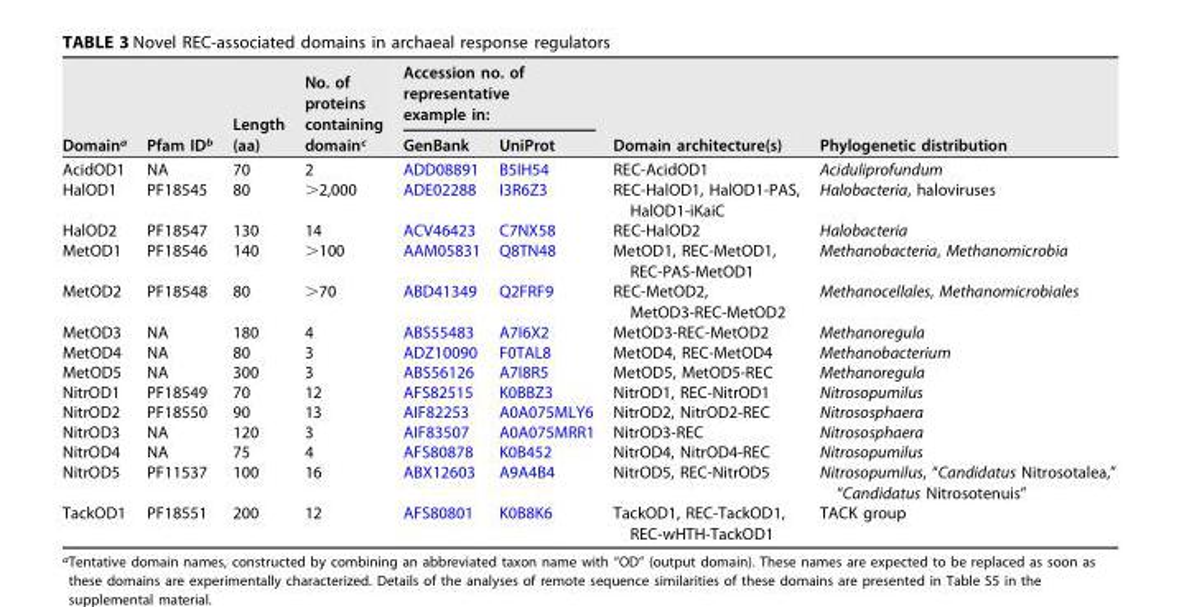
<table><thead><tr><td rowspan="2">Domain<sup>a</sup></td><td rowspan="2">Pfam ID<sup>b</sup></td><td rowspan="2">Length (aa)</td><td rowspan="2">No. of proteins containing domain<sup>c</sup></td><td colspan="2">Accession no. of representative example in:</td><td rowspan="2">Domain architecture(s)</td><td rowspan="2">Phylogenetic distribution</td></tr><tr><td>GenBank</td><td>UniProt</td></tr></thead><tbody><tr><td>AcidOD1</td><td>NA</td><td>70</td><td>2</td><td>ADD08891</td><td>B5IH54</td><td>REC-AcidOD1</td><td>Aciduliprofundum</td></tr><tr><td>HalOD1</td><td>PF18545</td><td>80</td><td>&gt;2,000</td><td>ADE02288</td><td>I3R6Z3</td><td>REC-HalOD1, HalOD1-PAS, HalOD1-iKaiC</td><td>Halobacteria, haloviruses</td></tr><tr><td>HalOD2</td><td>PF18547</td><td>130</td><td>14</td><td>ACV46423</td><td>C7NX58</td><td>REC-HalOD2</td><td>Halobacteria</td></tr><tr><td>MetOD1</td><td>PF18546</td><td>140</td><td>&gt;100</td><td>AAM05831</td><td>Q8TN48</td><td>MetOD1, REC-MetOD1, REC-PAS-MetOD1</td><td>Methanobacteria, Methanomicrobia</td></tr><tr><td>MetOD2</td><td>PF18548</td><td>80</td><td>&gt;70</td><td>ABD41349</td><td>Q2FRF9</td><td>REC-MetOD2, MetOD3-REC-MetOD2</td><td>Methanocellales, Methanomicrobiales</td></tr><tr><td>MetOD3</td><td>NA</td><td>180</td><td>4</td><td>ABS55483</td><td>A7I6X2</td><td>MetOD3-REC-MetOD2</td><td>Methanoregula</td></tr><tr><td>MetOD4</td><td>NA</td><td>80</td><td>3</td><td>ADZ10090</td><td>F0TAL8</td><td>MetOD4, REC-MetOD4</td><td>Methanobacterium</td></tr><tr><td>MetOD5</td><td>NA</td><td>300</td><td>3</td><td>ABS56126</td><td>A7I8R5</td><td>MetOD5, MetOD5-REC</td><td>Methanoregula</td></tr><tr><td>NitrOD1</td><td>PF18549</td><td>70</td><td>12</td><td>AFS82515</td><td>K0BBZ3</td><td>NitrOD1, REC-NitrOD1</td><td>Nitrosopumilus</td></tr><tr><td>NitrOD2</td><td>PF18550</td><td>90</td><td>13</td><td>AIF82253</td><td>A0A075MLY6</td><td>NitrOD2, NitrOD2-REC</td><td>Nitrososphaera</td></tr><tr><td>NitrOD3</td><td>NA</td><td>120</td><td>3</td><td>AIF83507</td><td>A0A075MRR1</td><td>NitrOD3-REC</td><td>Nitrososphaera</td></tr><tr><td>NitrOD4</td><td>NA</td><td>75</td><td>4</td><td>AFS80878</td><td>K0B452</td><td>NitrOD4, NitrOD4-REC</td><td>Nitrosopumilus</td></tr><tr><td>NitrOD5</td><td>PF11537</td><td>100</td><td>16</td><td>ABX12603</td><td>A9A4B4</td><td>NitrOD5, REC-NitrOD5</td><td>Nitrosopumilus, “Candidatus Nitrosotalea,” “Candidatus Nitrosotenuis”</td></tr><tr><td>TackOD1</td><td>PF18551</td><td>200</td><td>12</td><td>AFS80801</td><td>K0B8K6</td><td>TackOD1, REC-TackOD1, REC-wHTH-TackOD1</td><td>TACK group</td></tr></tbody></table>